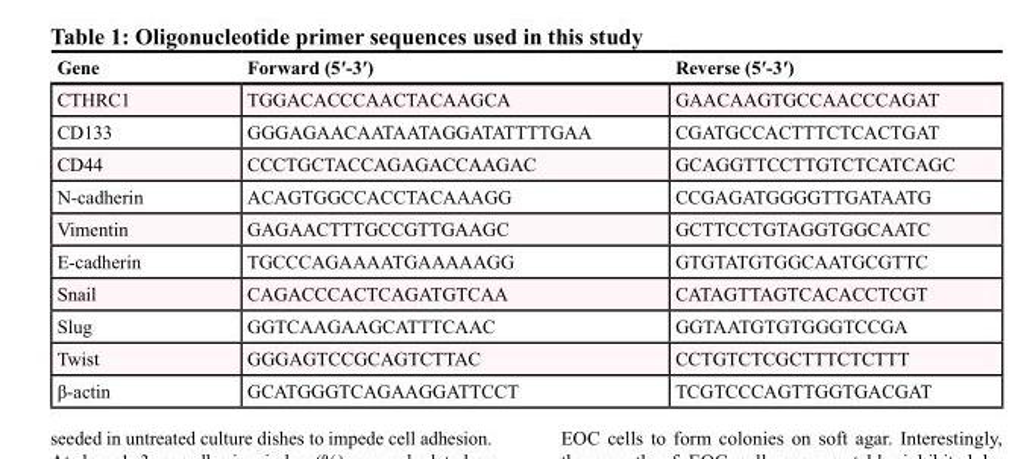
<table><thead><tr><td>Gene</td><td>Forward (5′-3′)</td><td>Reverse (5′-3′)</td></tr></thead><tbody><tr><td>CTHRC1</td><td>TGGACACCCAACTACAAGCA</td><td>GAACAAGTGCCAACCCAGAT</td></tr><tr><td>CD133</td><td>GGGAGAACAATAATAGGATATTTTGAA</td><td>CGATGCCACTTTCTCACTGAT</td></tr><tr><td>CD44</td><td>CCCTGCTACCAGAGACCAAGAC</td><td>GCAGGTTCCTTGTCTCATCAGC</td></tr><tr><td>N-cadherin</td><td>ACAGTGGCCACCTACAAAGG</td><td>CCGAGATGGGGTTGATAATG</td></tr><tr><td>Vimentin</td><td>GAGAACTTTGCCGTTGAAGC</td><td>GCTTCCTGTAGGTGGCAATC</td></tr><tr><td>E-cadherin</td><td>TGCCCAGAAAATGAAAAAGG</td><td>GTGTATGTGGCAATGCGTTC</td></tr><tr><td>Snail</td><td>CAGACCCACTCAGATGTCAA</td><td>CATAGTTAGTCACACCTCGT</td></tr><tr><td>Slug</td><td>GGTCAAGAAGCATTTCAAC</td><td>GGTAATGTGTGGGTCCGA</td></tr><tr><td>Twist</td><td>GGGAGTCCGCAGTCTTAC</td><td>CCTGTCTCGCTTTCTCTTT</td></tr><tr><td>β-actin</td><td>GCATGGGTCAGAAGGATTCCT</td><td>TCGTCCCAGTTGGTGACGAT</td></tr></tbody></table>